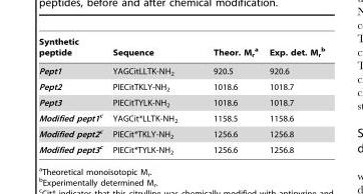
<table><thead><tr><td>Synthetic peptide</td><td>Sequence</td><td>Theor. M<sub>r</sub> a</td><td>Exp. det. M<sub>r</sub> b</td></tr></thead><tbody><tr><td>Pept1</td><td>YAGCitLLTK-NH<sub>2</sub></td><td>920.5</td><td>920.6</td></tr><tr><td>Pept2</td><td>PIECitTKLY-NH<sub>2</sub></td><td>1018.6</td><td>1018.7</td></tr><tr><td>Pept3</td><td>PIECitTYLK-NH<sub>2</sub></td><td>1018.6</td><td>1018.7</td></tr><tr><td>Modified pept1c</td><td>YAGCit*LLTK-NH<sub>2</sub></td><td>1158.5</td><td>1158.6</td></tr><tr><td>Modified pept2c</td><td>PIECit*TKLY-NH<sub>2</sub></td><td>1256.6</td><td>1256.8</td></tr><tr><td>Modified pept3c</td><td>PIECit*TYLK-NH<sub>2</sub></td><td>1256.6</td><td>1256.8</td></tr></tbody></table>